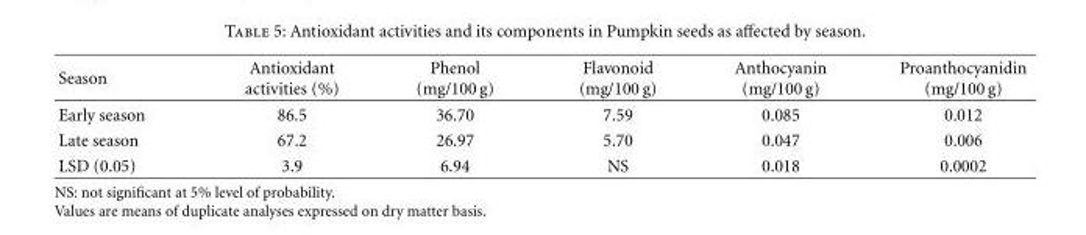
<table><thead><tr><td>Season</td><td>Antioxidant activities (%)</td><td>Phenol (mg/100 g)</td><td>Flavonoid (mg/100 g)</td><td>Anthocyanin (mg/100 g)</td><td>Proanthocyanidin (mg/100 g)</td></tr></thead><tbody><tr><td>Early season</td><td>86.5</td><td>36.70</td><td>7.59</td><td>0.085</td><td>0.012</td></tr><tr><td>Late season</td><td>67.2</td><td>26.97</td><td>5.70</td><td>0.047</td><td>0.006</td></tr><tr><td>LSD (0.05)</td><td>3.9</td><td>6.94</td><td>NS</td><td>0.018</td><td>0.0002</td></tr></tbody></table>